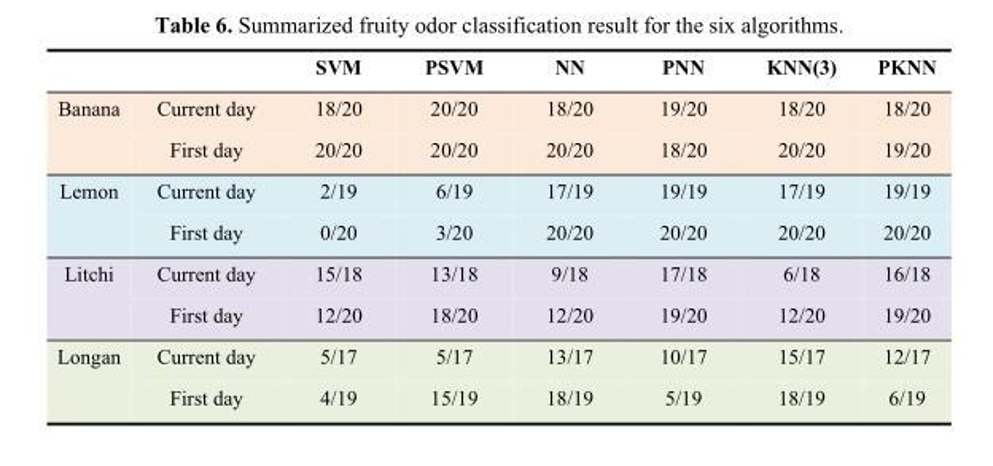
<table><thead><tr><td></td><td></td><td>SVM</td><td>PSVM</td><td>NN</td><td>PNN</td><td>KNN(3)</td><td>PKNN</td></tr></thead><tbody><tr><td rowspan="2">Banana</td><td>Current day</td><td>18/20</td><td>20/20</td><td>18/20</td><td>19/20</td><td>18/20</td><td>18/20</td></tr><tr><td>First day</td><td>20/20</td><td>20/20</td><td>20/20</td><td>18/20</td><td>20/20</td><td>19/20</td></tr><tr><td rowspan="2">Lemon</td><td>Current day</td><td>2/19</td><td>6/19</td><td>17/19</td><td>19/19</td><td>17/19</td><td>19/19</td></tr><tr><td>First day</td><td>0/20</td><td>3/20</td><td>20/20</td><td>20/20</td><td>20/20</td><td>20/20</td></tr><tr><td rowspan="2">Litchi</td><td>Current day</td><td>15/18</td><td>13/18</td><td>9/18</td><td>17/18</td><td>6/18</td><td>16/18</td></tr><tr><td>First day</td><td>12/20</td><td>18/20</td><td>12/20</td><td>19/20</td><td>12/20</td><td>19/20</td></tr><tr><td rowspan="2">Longan</td><td>Current day</td><td>5/17</td><td>5/17</td><td>13/17</td><td>10/17</td><td>15/17</td><td>12/17</td></tr><tr><td>First day</td><td>4/19</td><td>15/19</td><td>18/19</td><td>5/19</td><td>18/19</td><td>6/19</td></tr></tbody></table>